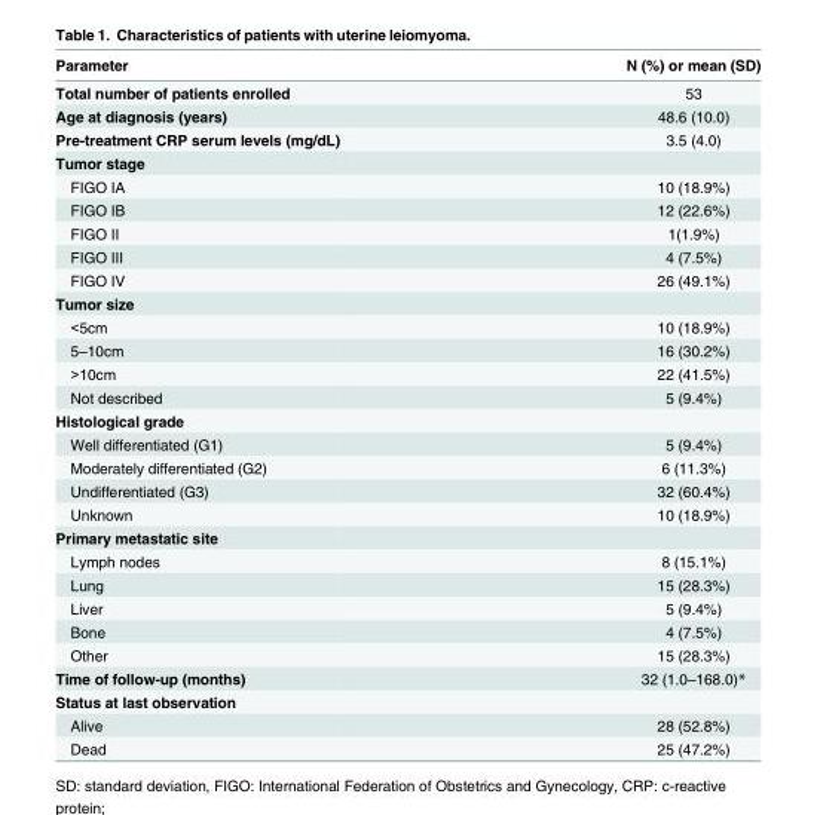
<table><thead><tr><td>Parameter</td><td>N (%) or mean (SD)</td></tr></thead><tbody><tr><td>Total number of patients enrolled</td><td>53</td></tr><tr><td>Age at diagnosis (years)</td><td>48.6 (10.0)</td></tr><tr><td>Pre-treatment CRP serum levels (mg/dL)</td><td>3.5 (4.0)</td></tr><tr><td colspan="2">Tumor stage</td></tr><tr><td>FIGO IA</td><td>10 (18.9%)</td></tr><tr><td>FIGO IB</td><td>12 (22.6%)</td></tr><tr><td>FIGO II</td><td>1(1.9%)</td></tr><tr><td>FIGO III</td><td>4 (7.5%)</td></tr><tr><td>FIGO IV</td><td>26 (49.1%)</td></tr><tr><td colspan="2">Tumor size</td></tr><tr><td>&lt;5cm</td><td>10 (18.9%)</td></tr><tr><td>5–10cm</td><td>16 (30.2%)</td></tr><tr><td>&gt;10cm</td><td>22 (41.5%)</td></tr><tr><td>Not described</td><td>5 (9.4%)</td></tr><tr><td colspan="2">Histological grade</td></tr><tr><td>Well differentiated (G1)</td><td>5 (9.4%)</td></tr><tr><td>Moderately differentiated (G2)</td><td>6 (11.3%)</td></tr><tr><td>Undifferentiated (G3)</td><td>32 (60.4%)</td></tr><tr><td>Unknown</td><td>10 (18.9%)</td></tr><tr><td colspan="2">Primary metastatic site</td></tr><tr><td>Lymph nodes</td><td>8 (15.1%)</td></tr><tr><td>Lung</td><td>15 (28.3%)</td></tr><tr><td>Liver</td><td>5 (9.4%)</td></tr><tr><td>Bone</td><td>4 (7.5%)</td></tr><tr><td>Other</td><td>15 (28.3%)</td></tr><tr><td>Time of follow-up (months)</td><td>32 (1.0–168.0)*</td></tr><tr><td colspan="2">Status at last observation</td></tr><tr><td>Alive</td><td>28 (52.8%)</td></tr><tr><td>Dead</td><td>25 (47.2%)</td></tr></tbody></table>